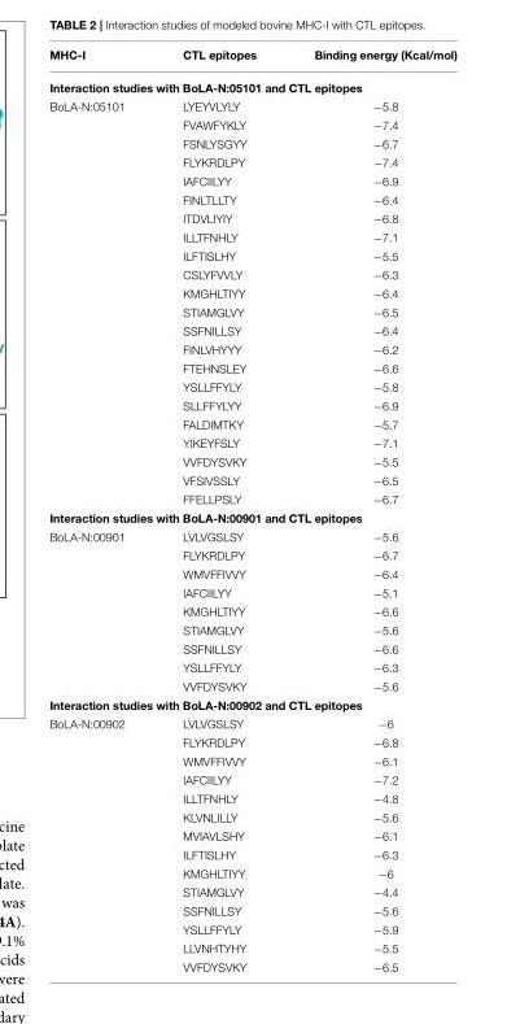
<table><thead><tr><td>MHC-I</td><td>CTL epitopes</td><td>Binding energy (Kcal/mol)</td></tr></thead><tbody><tr><td colspan="3">Interaction studies with BoLA-N:05101 and CTL epitopes</td></tr><tr><td rowspan="22">BoLA-N:05101</td><td>LYEYVLYLY</td><td>−5.8</td></tr><tr><td>FVAWFYKLY</td><td>−7.4</td></tr><tr><td>FSNLYSGYY</td><td>−6.7</td></tr><tr><td>FLYKRDLPY</td><td>−7.4</td></tr><tr><td>IAFCIILYY</td><td>−6.9</td></tr><tr><td>FINLTLLTY</td><td>−6.4</td></tr><tr><td>ITDVLIYIY</td><td>−6.8</td></tr><tr><td>ILLTFNHLY</td><td>−7.1</td></tr><tr><td>ILFTISLHY</td><td>−5.5</td></tr><tr><td>CSLYFVVLY</td><td>−6.3</td></tr><tr><td>KMGHLTIYY</td><td>−6.4</td></tr><tr><td>STIAMGLVY</td><td>−6.5</td></tr><tr><td>SSFNILLSY</td><td>−6.4</td></tr><tr><td>FINLVHYYY</td><td>−6.2</td></tr><tr><td>FTEHNSLEY</td><td>−6.6</td></tr><tr><td>YSLLFFYLY</td><td>−5.8</td></tr><tr><td>SLLFFYLYY</td><td>−6.9</td></tr><tr><td>FALDIMTKY</td><td>−5.7</td></tr><tr><td>YIKEYFSLY</td><td>−7.1</td></tr><tr><td>VVFDYSVKY</td><td>−5.5</td></tr><tr><td>VFSIVSSLY</td><td>−6.5</td></tr><tr><td>FFELLPSLY</td><td>−6.7</td></tr><tr><td colspan="3">Interaction studies with BoLA-N:00901 and CTL epitopes</td></tr><tr><td rowspan="9">BoLA-N:00901</td><td>LVLVGSLSY</td><td>−5.6</td></tr><tr><td>FLYKRDLPY</td><td>−6.7</td></tr><tr><td>WMVFFIVVY</td><td>−6.4</td></tr><tr><td>IAFCIILYY</td><td>−5.1</td></tr><tr><td>KMGHLTIYY</td><td>−6.6</td></tr><tr><td>STIAMGLVY</td><td>−5.6</td></tr><tr><td>SSFNILLSY</td><td>−6.6</td></tr><tr><td>YSLLFFYLY</td><td>−6.3</td></tr><tr><td>VVFDYSVKY</td><td>−5.6</td></tr><tr><td colspan="3">Interaction studies with BoLA-N:00902 and CTL epitopes</td></tr><tr><td rowspan="14">BoLA-N:00902</td><td>LVLVGSLSY</td><td>−6</td></tr><tr><td>FLYKRDLPY</td><td>−6.8</td></tr><tr><td>WMVFFIVVY</td><td>−6.1</td></tr><tr><td>IAFCIILYY</td><td>−7.2</td></tr><tr><td>ILLTFNHLY</td><td>−4.8</td></tr><tr><td>KLVNLILLY</td><td>−5.6</td></tr><tr><td>MVIAVLSHY</td><td>−6.1</td></tr><tr><td>ILFTISLHY</td><td>−6.3</td></tr><tr><td>KMGHLTIYY</td><td>−6</td></tr><tr><td>STIAMGLVY</td><td>−4.4</td></tr><tr><td>SSFNILLSY</td><td>−5.6</td></tr><tr><td>YSLLFFYLY</td><td>−5.9</td></tr><tr><td>LLVNHTYHY</td><td>−5.5</td></tr><tr><td>VVFDYSVKY</td><td>−6.5</td></tr></tbody></table>